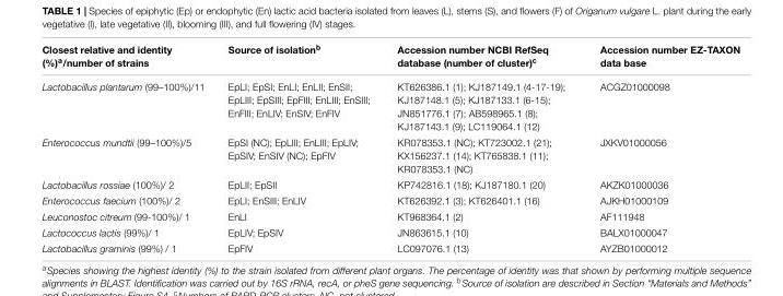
<table><thead><tr><td>Closest relative and identity (%)<sup>a</sup>/number of strains</td><td>Source of isolation<sup>b</sup></td><td>Accession number NCBI RefSeq database (number of cluster)<sup>c</sup></td><td>Accession number EZ-TAXON data base</td></tr></thead><tbody><tr><td>Lactobacillus plantarum (99–100%)/11</td><td>EpLI; EpSI; EnLI; EnLII; EnSII; EpLIII; EpSIII; EpFIII; EnLIII; EnSIII; EnFIII; EnLIV; EnSIV; EnFIV</td><td>KT626386.1 (1); KJ187149.1 (4-17-19); KJ187148.1 (5); KJ187133.1 (6-15); JN851776.1 (7); AB598965.1 (8); KJ187143.1 (9); LC119064.1 (12)</td><td>ACGZ01000098</td></tr><tr><td>Enterococcus mundtii (99–100%)/5</td><td>EpSI (NC); EpLIII; EnLIII; EpLIV; EpSIV; EnSIV (NC); EpFIV</td><td>KR078353.1 (NC); KT723002.1 (21); KX156237.1 (14); KT765838.1 (11); KR078353.1 (NC)</td><td>JXKV01000056</td></tr><tr><td>Lactobacillus rossiae (100%)/ 2</td><td>EpLII; EpSII</td><td>KP742816.1 (18); KJ187180.1 (20)</td><td>AKZK01000036</td></tr><tr><td>Enterococcus faecium (100%)/ 2</td><td>EpLI; EnSIII; EnLIV</td><td>KT626392.1 (3); KT626401.1 (16)</td><td>AJKH01000109</td></tr><tr><td>Leuconostoc citreum (99-100%)/ 1</td><td>EnLI</td><td>KT968364.1 (2)</td><td>AF111948</td></tr><tr><td>Lactococcus lactis (99%)/ 1</td><td>EpLIV; EpSIV</td><td>JN863615.1 (10)</td><td>BALX01000047</td></tr><tr><td>Lactobacillus graminis (99%) / 1</td><td>EpFIV</td><td>LC097076.1 (13)</td><td>AYZB01000012</td></tr></tbody></table>